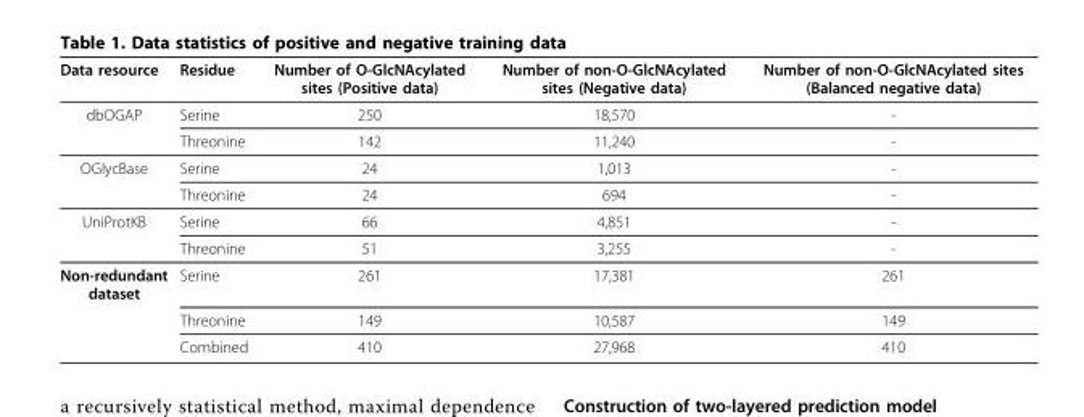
<table><thead><tr><td>Data resource</td><td>Residue</td><td>Number of O-GlcNAcylated sites (Positive data)</td><td>Number of non-O-GlcNAcylated sites (Negative data)</td><td>Number of non-O-GlcNAcylated sites (Balanced negative data)</td></tr></thead><tbody><tr><td rowspan="2">dbOGAP</td><td>Serine</td><td>250</td><td>18,570</td><td>-</td></tr><tr><td>Threonine</td><td>142</td><td>11,240</td><td>-</td></tr><tr><td rowspan="2">OGlycBase</td><td>Serine</td><td>24</td><td>1,013</td><td>-</td></tr><tr><td>Threonine</td><td>24</td><td>694</td><td>-</td></tr><tr><td rowspan="2">UniProtKB</td><td>Serine</td><td>66</td><td>4,851</td><td>-</td></tr><tr><td>Threonine</td><td>51</td><td>3,255</td><td>-</td></tr><tr><td rowspan="3">Non-redundant dataset</td><td>Serine</td><td>261</td><td>17,381</td><td>261</td></tr><tr><td>Threonine</td><td>149</td><td>10,587</td><td>149</td></tr><tr><td>Combined</td><td>410</td><td>27,968</td><td>410</td></tr></tbody></table>